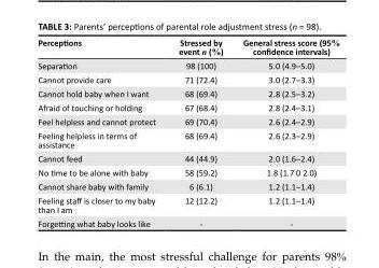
<table><thead><tr><td>Perceptions</td><td>Stressed by event n (%)</td><td>General stress score (95% confidence intervals)</td></tr></thead><tbody><tr><td>Separation</td><td>98 (100)</td><td>5.0 (4.9–5.0)</td></tr><tr><td>Cannot provide care</td><td>71 (72.4)</td><td>3.0 (2.7–3.3)</td></tr><tr><td>Cannot hold baby when I want</td><td>68 (69.4)</td><td>2.8 (2.5–3.2)</td></tr><tr><td>Afraid of touching or holding</td><td>67 (68.4)</td><td>2.8 (2.4–3.1)</td></tr><tr><td>Feel helpless and cannot protect</td><td>69 (70.4)</td><td>2.6 (2.4–2.9)</td></tr><tr><td>Feeling helpless in terms of assistance</td><td>68 (69.4)</td><td>2.6 (2.3–2.9)</td></tr><tr><td>Cannot feed</td><td>44 (44.9)</td><td>2.0 (1.6–2.4)</td></tr><tr><td>No time to be alone with baby</td><td>58 (59.2)</td><td>1.8 (1.7 0 2.0)</td></tr><tr><td>Cannot share baby with family</td><td>6 (6.1)</td><td>1.2 (1.1–1.4)</td></tr><tr><td>Feeling staff is closer to my baby than I am</td><td>12 (12.2)</td><td>1.2 (1.1–1.4)</td></tr><tr><td>Forgetting what baby looks like</td><td>-</td><td>-</td></tr></tbody></table>